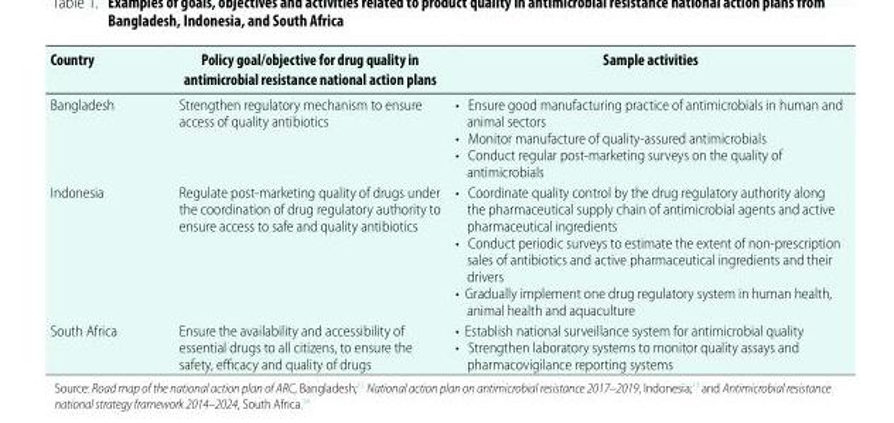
<table><thead><tr><td>Country</td><td>Policy goal/objective for drug quality in antimicrobial resistance national action plans</td><td>Sample activities</td></tr></thead><tbody><tr><td>Bangladesh</td><td>Strengthen regulatory mechanism to ensure access of quality antibiotics</td><td>• Ensure good manufacturing practice of antimicrobials in human and animal sectors • Monitor manufacture of quality-assured antimicrobials • Conduct regular post-marketing surveys on the quality of antimicrobials</td></tr><tr><td>Indonesia</td><td>Regulate post-marketing quality of drugs under the coordination of drug regulatory authority to ensure access to safe and quality antibiotics</td><td>• Coordinate quality control by the drug regulatory authority along the pharmaceutical supply chain of antimicrobial agents and active pharmaceutical ingredients • Conduct periodic surveys to estimate the extent of non-prescription sales of antibiotics and active pharmaceutical ingredients and their drivers • Gradually implement one drug regulatory system in human health, animal health and aquaculture</td></tr><tr><td>South Africa</td><td>Ensure the availability and accessibility of essential drugs to all citizens, to ensure the safety, efficacy and quality of drugs</td><td>• Establish national surveillance system for antimicrobial quality • Strengthen laboratory systems to monitor quality assays and pharmacovigilance reporting systems</td></tr></tbody></table>